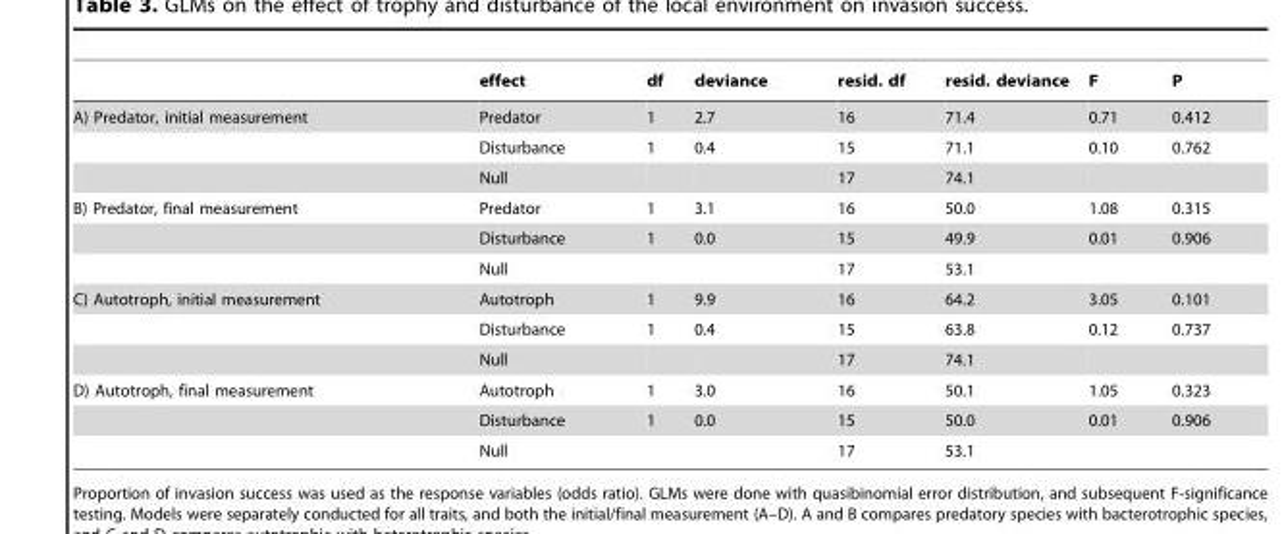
<table><thead><tr><td></td><td>effect</td><td>df</td><td>deviance</td><td>resid. df</td><td>resid. deviance</td><td>F</td><td>P</td></tr></thead><tbody><tr><td rowspan="3">A) Predator, initial measurement</td><td>Predator</td><td>1</td><td>2.7</td><td>16</td><td>71.4</td><td>0.71</td><td>0.412</td></tr><tr><td>Disturbance</td><td>1</td><td>0.4</td><td>15</td><td>71.1</td><td>0.10</td><td>0.762</td></tr><tr><td>Null</td><td></td><td></td><td>17</td><td>74.1</td><td></td><td></td></tr><tr><td rowspan="3">B) Predator, final measurement</td><td>Predator</td><td>1</td><td>3.1</td><td>16</td><td>50.0</td><td>1.08</td><td>0.315</td></tr><tr><td>Disturbance</td><td>1</td><td>0.0</td><td>15</td><td>49.9</td><td>0.01</td><td>0.906</td></tr><tr><td>Null</td><td></td><td></td><td>17</td><td>53.1</td><td></td><td></td></tr><tr><td rowspan="3">C) Autotroph, initial measurement</td><td>Autotroph</td><td>1</td><td>9.9</td><td>16</td><td>64.2</td><td>3.05</td><td>0.101</td></tr><tr><td>Disturbance</td><td>1</td><td>0.4</td><td>15</td><td>63.8</td><td>0.12</td><td>0.737</td></tr><tr><td>Null</td><td></td><td></td><td>17</td><td>74.1</td><td></td><td></td></tr><tr><td rowspan="3">D) Autotroph, final measurement</td><td>Autotroph</td><td>1</td><td>3.0</td><td>16</td><td>50.1</td><td>1.05</td><td>0.323</td></tr><tr><td>Disturbance</td><td>1</td><td>0.0</td><td>15</td><td>50.0</td><td>0.01</td><td>0.906</td></tr><tr><td>Null</td><td></td><td></td><td>17</td><td>53.1</td><td></td><td></td></tr></tbody></table>